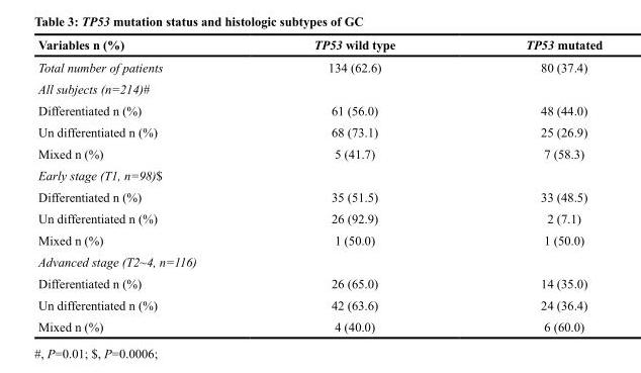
<table><thead><tr><td>Variables n (%)</td><td>TP53 wild type</td><td>TP53 mutated</td></tr></thead><tbody><tr><td>Total number of patients</td><td>134 (62.6)</td><td>80 (37.4)</td></tr><tr><td colspan="3">All subjects (n=214)#</td></tr><tr><td>Differentiated n (%)</td><td>61 (56.0)</td><td>48 (44.0)</td></tr><tr><td>Un differentiated n (%)</td><td>68 (73.1)</td><td>25 (26.9)</td></tr><tr><td>Mixed n (%)</td><td>5 (41.7)</td><td>7 (58.3)</td></tr><tr><td colspan="3">Early stage (T1, n=98)$</td></tr><tr><td>Differentiated n (%)</td><td>35 (51.5)</td><td>33 (48.5)</td></tr><tr><td>Un differentiated n (%)</td><td>26 (92.9)</td><td>2 (7.1)</td></tr><tr><td>Mixed n (%)</td><td>1 (50.0)</td><td>1 (50.0)</td></tr><tr><td colspan="3">Advanced stage (T2~4, n=116)</td></tr><tr><td>Differentiated n (%)</td><td>26 (65.0)</td><td>14 (35.0)</td></tr><tr><td>Un differentiated n (%)</td><td>42 (63.6)</td><td>24 (36.4)</td></tr><tr><td>Mixed n (%)</td><td>4 (40.0)</td><td>6 (60.0)</td></tr></tbody></table>